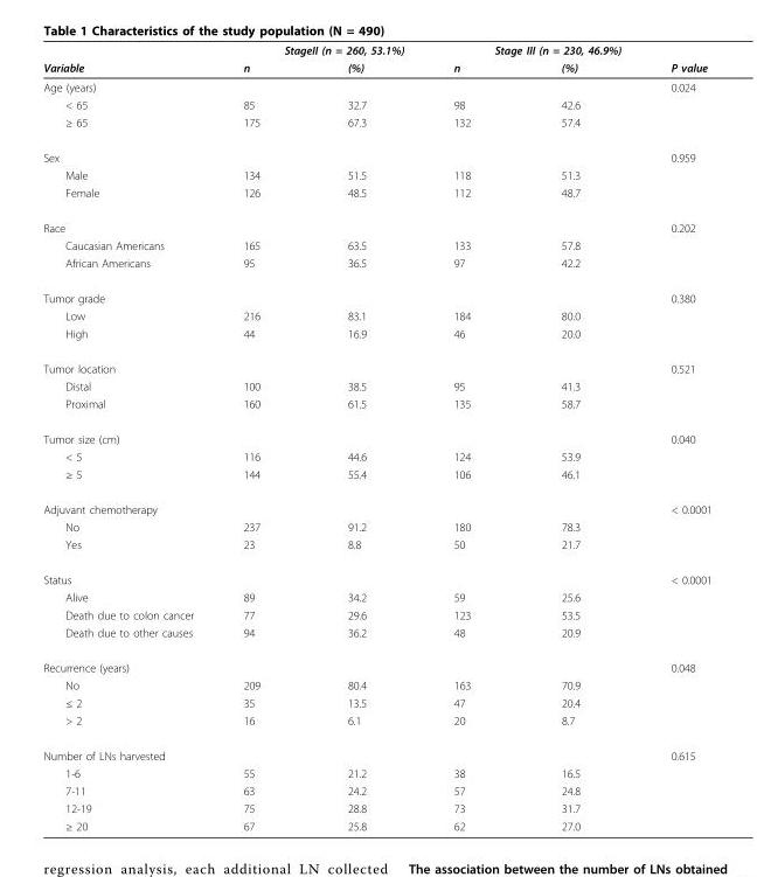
<table><thead><tr><td rowspan="2">Variable</td><td colspan="2">StageII (n = 260, 53.1%)</td><td colspan="2">Stage III (n = 230, 46.9%)</td><td rowspan="2">P value</td></tr><tr><td>n</td><td>(%)</td><td>n</td><td>(%)</td></tr></thead><tbody><tr><td>Age (years)</td><td></td><td></td><td></td><td></td><td>0.024</td></tr><tr><td>&lt; 65</td><td>85</td><td>32.7</td><td>98</td><td>42.6</td><td></td></tr><tr><td>≥ 65</td><td>175</td><td>67.3</td><td>132</td><td>57.4</td><td></td></tr><tr><td>Sex</td><td></td><td></td><td></td><td></td><td>0.959</td></tr><tr><td>Male</td><td>134</td><td>51.5</td><td>118</td><td>51.3</td><td></td></tr><tr><td>Female</td><td>126</td><td>48.5</td><td>112</td><td>48.7</td><td></td></tr><tr><td>Race</td><td></td><td></td><td></td><td></td><td>0.202</td></tr><tr><td>Caucasian Americans</td><td>165</td><td>63.5</td><td>133</td><td>57.8</td><td></td></tr><tr><td>African Americans</td><td>95</td><td>36.5</td><td>97</td><td>42.2</td><td></td></tr><tr><td>Tumor grade</td><td></td><td></td><td></td><td></td><td>0.380</td></tr><tr><td>Low</td><td>216</td><td>83.1</td><td>184</td><td>80.0</td><td></td></tr><tr><td>High</td><td>44</td><td>16.9</td><td>46</td><td>20.0</td><td></td></tr><tr><td>Tumor location</td><td></td><td></td><td></td><td></td><td>0.521</td></tr><tr><td>Distal</td><td>100</td><td>38.5</td><td>95</td><td>41.3</td><td></td></tr><tr><td>Proximal</td><td>160</td><td>61.5</td><td>135</td><td>58.7</td><td></td></tr><tr><td>Tumor size (cm)</td><td></td><td></td><td></td><td></td><td>0.040</td></tr><tr><td>&lt; 5</td><td>116</td><td>44.6</td><td>124</td><td>53.9</td><td></td></tr><tr><td>≥ 5</td><td>144</td><td>55.4</td><td>106</td><td>46.1</td><td></td></tr><tr><td>Adjuvant chemotherapy</td><td></td><td></td><td></td><td></td><td>&lt; 0.0001</td></tr><tr><td>No</td><td>237</td><td>91.2</td><td>180</td><td>78.3</td><td></td></tr><tr><td>Yes</td><td>23</td><td>8.8</td><td>50</td><td>21.7</td><td></td></tr><tr><td>Status</td><td></td><td></td><td></td><td></td><td>&lt; 0.0001</td></tr><tr><td>Alive</td><td>89</td><td>34.2</td><td>59</td><td>25.6</td><td></td></tr><tr><td>Death due to colon cancer</td><td>77</td><td>29.6</td><td>123</td><td>53.5</td><td></td></tr><tr><td>Death due to other causes</td><td>94</td><td>36.2</td><td>48</td><td>20.9</td><td></td></tr><tr><td>Recurrence (years)</td><td></td><td></td><td></td><td></td><td>0.048</td></tr><tr><td>No</td><td>209</td><td>80.4</td><td>163</td><td>70.9</td><td></td></tr><tr><td>≤ 2</td><td>35</td><td>13.5</td><td>47</td><td>20.4</td><td></td></tr><tr><td>&gt; 2</td><td>16</td><td>6.1</td><td>20</td><td>8.7</td><td></td></tr><tr><td>Number of LNs harvested</td><td></td><td></td><td></td><td></td><td>0.615</td></tr><tr><td>1-6</td><td>55</td><td>21.2</td><td>38</td><td>16.5</td><td></td></tr><tr><td>7-11</td><td>63</td><td>24.2</td><td>57</td><td>24.8</td><td></td></tr><tr><td>12-19</td><td>75</td><td>28.8</td><td>73</td><td>31.7</td><td></td></tr><tr><td>≥ 20</td><td>67</td><td>25.8</td><td>62</td><td>27.0</td><td></td></tr></tbody></table>